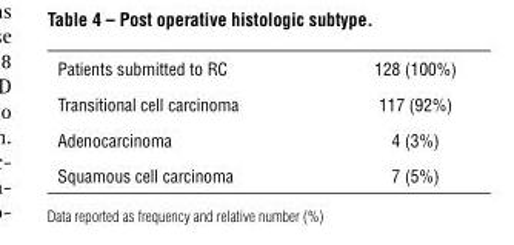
<table><thead><tr><td>Patients submitted to RC</td><td>128 (100%)</td></tr></thead><tbody><tr><td>Transitional cell carcinoma</td><td>117 (92%)</td></tr><tr><td>Adenocarcinoma</td><td>4 (3%)</td></tr><tr><td>Squamous cell carcinoma</td><td>7 (5%)</td></tr></tbody></table>